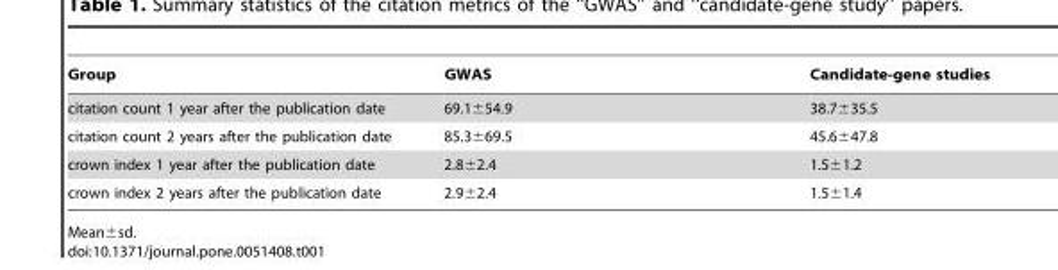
<table><thead><tr><td>Group</td><td>GWAS</td><td>Candidate-gene studies</td></tr></thead><tbody><tr><td>citation count 1 year after the publication date</td><td>69.1±54.9</td><td>38.7±35.5</td></tr><tr><td>citation count 2 years after the publication date</td><td>85.3±69.5</td><td>45.6±47.8</td></tr><tr><td>crown index 1 year after the publication date</td><td>2.8±2.4</td><td>1.5±1.2</td></tr><tr><td>crown index 2 years after the publication date</td><td>2.9±2.4</td><td>1.5±1.4</td></tr></tbody></table>